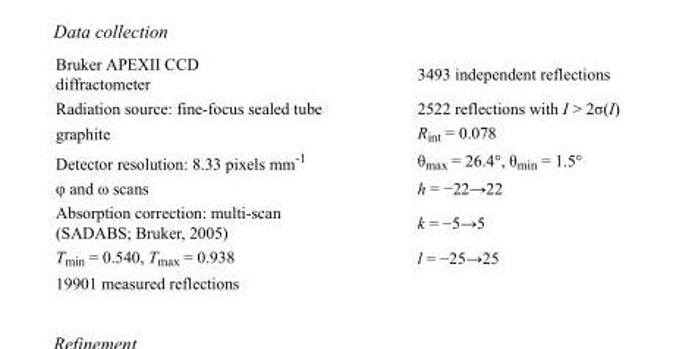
<table><tbody><tr><td>Bruker APEXII CCD diffractometer</td><td>3493 independent reflections</td></tr><tr><td>Radiation source: fine-focus sealed tube</td><td>2522 reflections with I &gt; 2σ(I)</td></tr><tr><td>graphite</td><td>R<sub>int</sub> = 0.078</td></tr><tr><td>Detector resolution: 8.33 pixels mm<sup>-1</sup></td><td>θ<sub>max</sub> = 26.4°, θ<sub>min</sub> = 1.5°</td></tr><tr><td>φ and ω scans</td><td>h = −22→22</td></tr><tr><td>Absorption correction: multi-scan (SADABS; Bruker, 2005)</td><td>k = −5→5</td></tr><tr><td>T<sub>min</sub> = 0.540, T<sub>max</sub> = 0.938</td><td>l = −25→25</td></tr><tr><td>19901 measured reflections</td><td></td></tr></tbody></table>